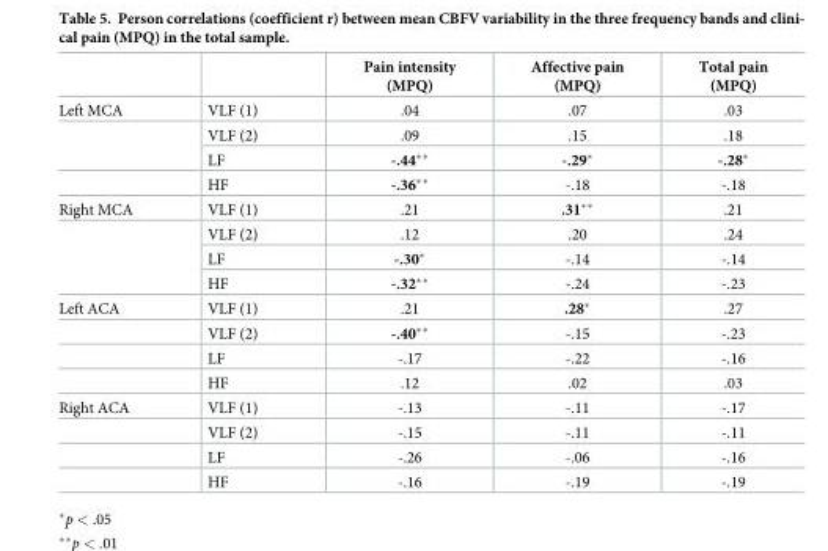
<table><thead><tr><td></td><td></td><td>Pain intensity (MPQ)</td><td>Affective pain (MPQ)</td><td>Total pain (MPQ)</td></tr></thead><tbody><tr><td rowspan="4">Left MCA</td><td>VLF (1)</td><td>.04</td><td>.07</td><td>.03</td></tr><tr><td>VLF (2)</td><td>.09</td><td>.15</td><td>.18</td></tr><tr><td>LF</td><td>-.44**</td><td>-.29*</td><td>-.28*</td></tr><tr><td>HF</td><td>-.36**</td><td>-.18</td><td>-.18</td></tr><tr><td rowspan="4">Right MCA</td><td>VLF (1)</td><td>.21</td><td>.31**</td><td>.21</td></tr><tr><td>VLF (2)</td><td>.12</td><td>.20</td><td>.24</td></tr><tr><td>LF</td><td>-.30*</td><td>-.14</td><td>-.14</td></tr><tr><td>HF</td><td>-.32**</td><td>-.24</td><td>-.23</td></tr><tr><td rowspan="4">Left ACA</td><td>VLF (1)</td><td>.21</td><td>.28*</td><td>.27</td></tr><tr><td>VLF (2)</td><td>-.40**</td><td>-.15</td><td>-.23</td></tr><tr><td>LF</td><td>-.17</td><td>-.22</td><td>-.16</td></tr><tr><td>HF</td><td>.12</td><td>.02</td><td>.03</td></tr><tr><td rowspan="4">Right ACA</td><td>VLF (1)</td><td>-.13</td><td>-.11</td><td>-.17</td></tr><tr><td>VLF (2)</td><td>-.15</td><td>-.11</td><td>-.11</td></tr><tr><td>LF</td><td>-.26</td><td>-.06</td><td>-.16</td></tr><tr><td>HF</td><td>-.16</td><td>-.19</td><td>-.19</td></tr></tbody></table>